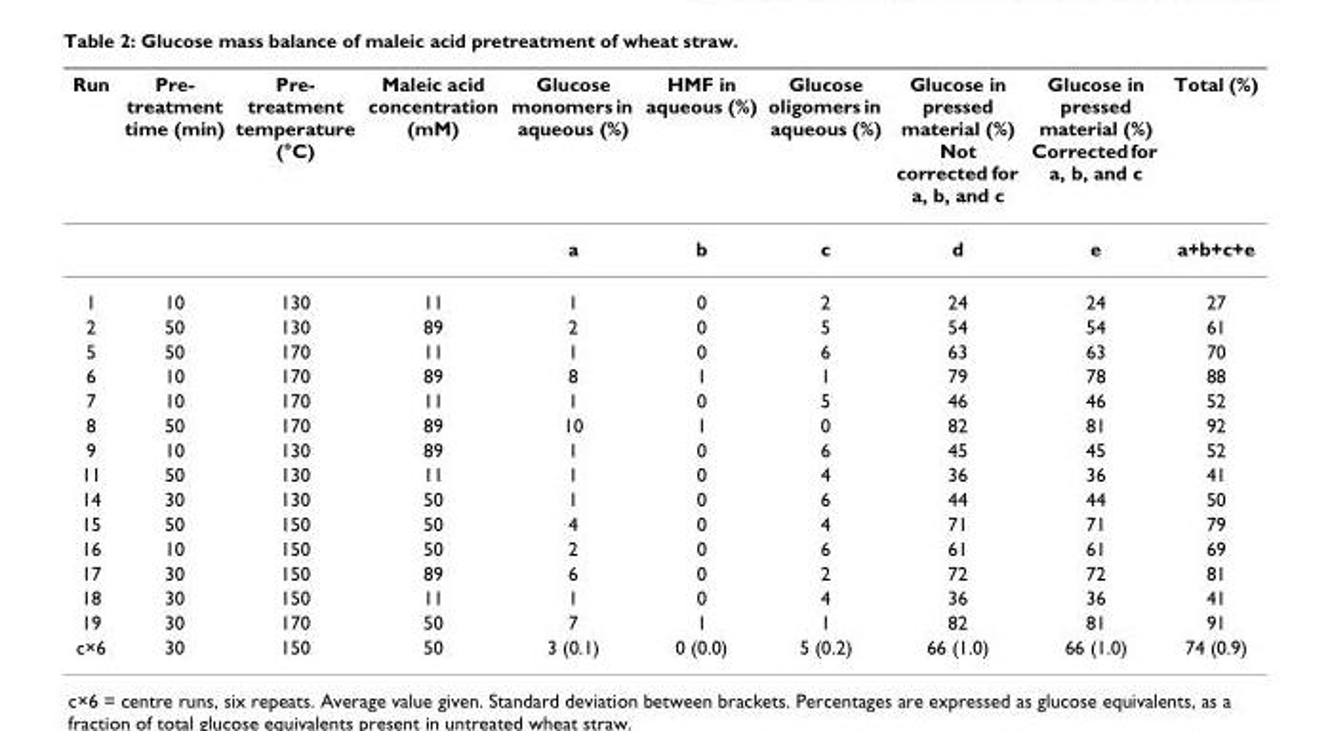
<table><thead><tr><td>Run</td><td>Pre- treatment time (min)</td><td>Pre- treatment temperature (°C)</td><td>Maleic acid concentration (mM)</td><td>Glucose monomers in aqueous (%)</td><td>HMF in aqueous (%)</td><td>Glucose oligomers in aqueous (%)</td><td>Glucose in pressed material (%) Not corrected for a, b, and c</td><td>Glucose in pressed material (%) Corrected for a, b, and c</td><td>Total (%)</td></tr></thead><tbody><tr><td></td><td></td><td></td><td></td><td>a</td><td>b</td><td>c</td><td>d</td><td>e</td><td>a+b+c+e</td></tr><tr><td>1</td><td>10</td><td>130</td><td>11</td><td>1</td><td>0</td><td>2</td><td>24</td><td>24</td><td>27</td></tr><tr><td>2</td><td>50</td><td>130</td><td>89</td><td>2</td><td>0</td><td>5</td><td>54</td><td>54</td><td>61</td></tr><tr><td>5</td><td>50</td><td>170</td><td>11</td><td>1</td><td>0</td><td>6</td><td>63</td><td>63</td><td>70</td></tr><tr><td>6</td><td>10</td><td>170</td><td>89</td><td>8</td><td>1</td><td>1</td><td>79</td><td>78</td><td>88</td></tr><tr><td>7</td><td>10</td><td>170</td><td>11</td><td>1</td><td>0</td><td>5</td><td>46</td><td>46</td><td>52</td></tr><tr><td>8</td><td>50</td><td>170</td><td>89</td><td>10</td><td>1</td><td>0</td><td>82</td><td>81</td><td>92</td></tr><tr><td>9</td><td>10</td><td>130</td><td>89</td><td>1</td><td>0</td><td>6</td><td>45</td><td>45</td><td>52</td></tr><tr><td>11</td><td>50</td><td>130</td><td>11</td><td>1</td><td>0</td><td>4</td><td>36</td><td>36</td><td>41</td></tr><tr><td>14</td><td>30</td><td>130</td><td>50</td><td>1</td><td>0</td><td>6</td><td>44</td><td>44</td><td>50</td></tr><tr><td>15</td><td>50</td><td>150</td><td>50</td><td>4</td><td>0</td><td>4</td><td>71</td><td>71</td><td>79</td></tr><tr><td>16</td><td>10</td><td>150</td><td>50</td><td>2</td><td>0</td><td>6</td><td>61</td><td>61</td><td>69</td></tr><tr><td>17</td><td>30</td><td>150</td><td>89</td><td>6</td><td>0</td><td>2</td><td>72</td><td>72</td><td>81</td></tr><tr><td>18</td><td>30</td><td>150</td><td>11</td><td>1</td><td>0</td><td>4</td><td>36</td><td>36</td><td>41</td></tr><tr><td>19</td><td>30</td><td>170</td><td>50</td><td>7</td><td>1</td><td>1</td><td>82</td><td>81</td><td>91</td></tr><tr><td>c×6</td><td>30</td><td>150</td><td>50</td><td>3 (0.1)</td><td>0 (0.0)</td><td>5 (0.2)</td><td>66 (1.0)</td><td>66 (1.0)</td><td>74 (0.9)</td></tr></tbody></table>